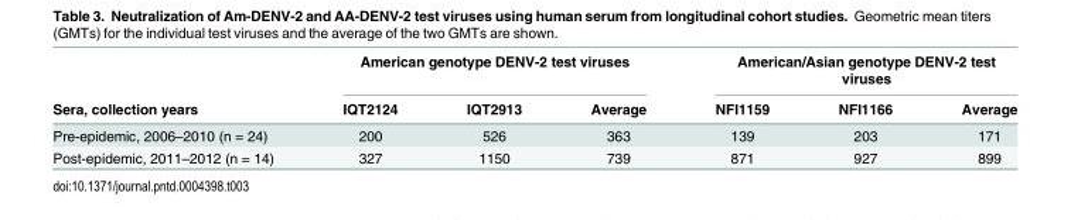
<table><thead><tr><td rowspan="2">Sera, collection years</td><td colspan="3">American genotype DENV-2 test viruses</td><td colspan="3">American/Asian genotype DENV-2 test viruses</td></tr><tr><td>IQT2124</td><td>IQT2913</td><td>Average</td><td>NFI1159</td><td>NFI1166</td><td>Average</td></tr></thead><tbody><tr><td>Pre-epidemic, 2006–2010 (n = 24)</td><td>200</td><td>526</td><td>363</td><td>139</td><td>203</td><td>171</td></tr><tr><td>Post-epidemic, 2011–2012 (n = 14)</td><td>327</td><td>1150</td><td>739</td><td>871</td><td>927</td><td>899</td></tr></tbody></table>